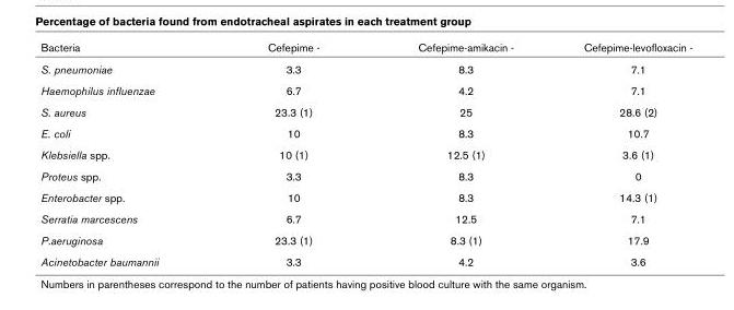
<table><thead><tr><td>Bacteria</td><td>Cefepime -</td><td>Cefepime-amikacin -</td><td>Cefepime-levofloxacin -</td></tr></thead><tbody><tr><td>S. pneumoniae</td><td>3.3</td><td>8.3</td><td>7.1</td></tr><tr><td>Haemophilus influenzae</td><td>6.7</td><td>4.2</td><td>7.1</td></tr><tr><td>S. aureus</td><td>23.3 (1)</td><td>25</td><td>28.6 (2)</td></tr><tr><td>E. coli</td><td>10</td><td>8.3</td><td>10.7</td></tr><tr><td>Klebsiella spp.</td><td>10 (1)</td><td>12.5 (1)</td><td>3.6 (1)</td></tr><tr><td>Proteus spp.</td><td>3.3</td><td>8.3</td><td>0</td></tr><tr><td>Enterobacter spp.</td><td>10</td><td>8.3</td><td>14.3 (1)</td></tr><tr><td>Serratia marcescens</td><td>6.7</td><td>12.5</td><td>7.1</td></tr><tr><td>P.aeruginosa</td><td>23.3 (1)</td><td>8.3 (1)</td><td>17.9</td></tr><tr><td>Acinetobacter baumannii</td><td>3.3</td><td>4.2</td><td>3.6</td></tr></tbody></table>